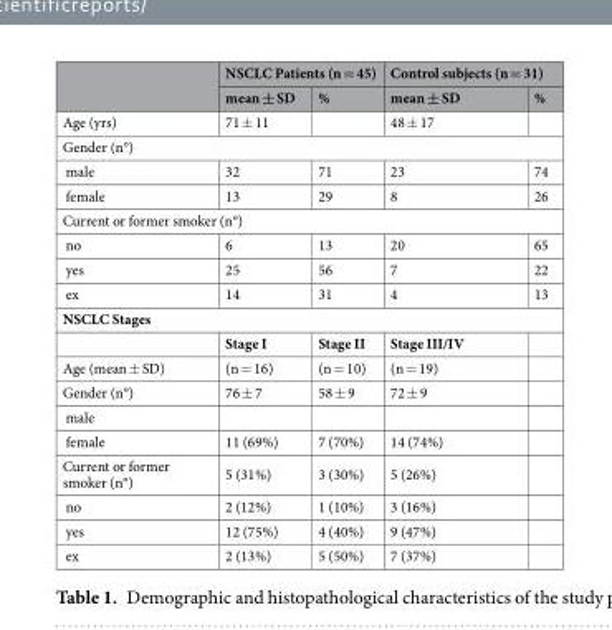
<table><thead><tr><td rowspan="2"></td><td colspan="2">NSCLC Patients (n = 45)</td><td colspan="2">Control subjects (n = 31)</td></tr><tr><td>mean ± SD</td><td>%</td><td>mean ± SD</td><td>%</td></tr></thead><tbody><tr><td>Age (yrs)</td><td>71 ± 11</td><td></td><td>48 ± 17</td><td></td></tr><tr><td colspan="5">Gender (n°)</td></tr><tr><td>male</td><td>32</td><td>71</td><td>23</td><td>74</td></tr><tr><td>female</td><td>13</td><td>29</td><td>8</td><td>26</td></tr><tr><td colspan="5">Current or former smoker (n°)</td></tr><tr><td>no</td><td>6</td><td>13</td><td>20</td><td>65</td></tr><tr><td>yes</td><td>25</td><td>56</td><td>7</td><td>22</td></tr><tr><td>ex</td><td>14</td><td>31</td><td>4</td><td>13</td></tr><tr><td colspan="5">NSCLC Stages</td></tr><tr><td></td><td>Stage I</td><td>Stage II</td><td>Stage III/IV</td><td></td></tr><tr><td>Age (mean ± SD)</td><td>(n = 16)</td><td>(n = 10)</td><td>(n = 19)</td><td></td></tr><tr><td>Gender (n°)</td><td>76 ± 7</td><td>58 ± 9</td><td>72 ± 9</td><td></td></tr><tr><td colspan="5">male</td></tr><tr><td>female</td><td>11 (69%)</td><td>7 (70%)</td><td>14 (74%)</td><td></td></tr><tr><td>Current or former smoker (n°)</td><td>5 (31%)</td><td>3 (30%)</td><td>5 (26%)</td><td></td></tr><tr><td>no</td><td>2 (12%)</td><td>1 (10%)</td><td>3 (16%)</td><td></td></tr><tr><td>yes</td><td>12 (75%)</td><td>4 (40%)</td><td>9 (47%)</td><td></td></tr><tr><td>ex</td><td>2 (13%)</td><td>5 (50%)</td><td>7 (37%)</td><td></td></tr></tbody></table>